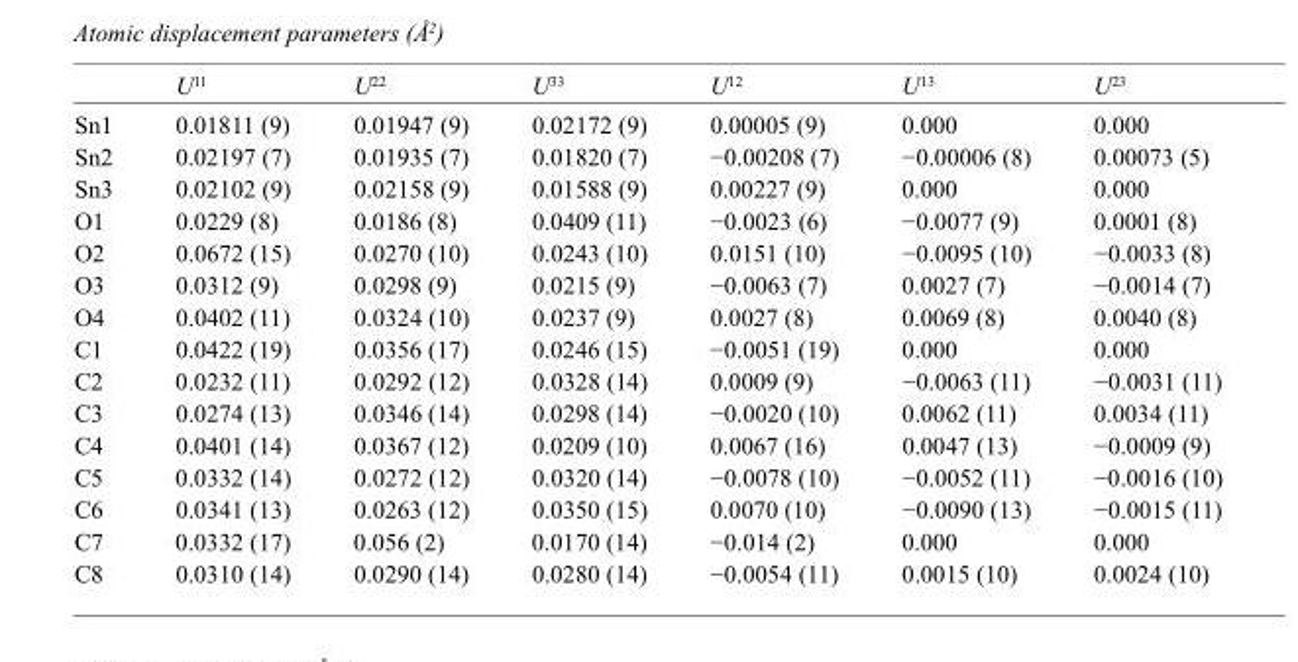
<table><thead><tr><td></td><td>U<sup>11</sup></td><td>U<sup>22</sup></td><td>U<sup>33</sup></td><td>U<sup>12</sup></td><td>U<sup>13</sup></td><td>U<sup>23</sup></td></tr></thead><tbody><tr><td>Sn1</td><td>0.01811 (9)</td><td>0.01947 (9)</td><td>0.02172 (9)</td><td>0.00005 (9)</td><td>0.000</td><td>0.000</td></tr><tr><td>Sn2</td><td>0.02197 (7)</td><td>0.01935 (7)</td><td>0.01820 (7)</td><td>−0.00208 (7)</td><td>−0.00006 (8)</td><td>0.00073 (5)</td></tr><tr><td>Sn3</td><td>0.02102 (9)</td><td>0.02158 (9)</td><td>0.01588 (9)</td><td>0.00227 (9)</td><td>0.000</td><td>0.000</td></tr><tr><td>O1</td><td>0.0229 (8)</td><td>0.0186 (8)</td><td>0.0409 (11)</td><td>−0.0023 (6)</td><td>−0.0077 (9)</td><td>0.0001 (8)</td></tr><tr><td>O2</td><td>0.0672 (15)</td><td>0.0270 (10)</td><td>0.0243 (10)</td><td>0.0151 (10)</td><td>−0.0095 (10)</td><td>−0.0033 (8)</td></tr><tr><td>O3</td><td>0.0312 (9)</td><td>0.0298 (9)</td><td>0.0215 (9)</td><td>−0.0063 (7)</td><td>0.0027 (7)</td><td>−0.0014 (7)</td></tr><tr><td>O4</td><td>0.0402 (11)</td><td>0.0324 (10)</td><td>0.0237 (9)</td><td>0.0027 (8)</td><td>0.0069 (8)</td><td>0.0040 (8)</td></tr><tr><td>C1</td><td>0.0422 (19)</td><td>0.0356 (17)</td><td>0.0246 (15)</td><td>−0.0051 (19)</td><td>0.000</td><td>0.000</td></tr><tr><td>C2</td><td>0.0232 (11)</td><td>0.0292 (12)</td><td>0.0328 (14)</td><td>0.0009 (9)</td><td>−0.0063 (11)</td><td>−0.0031 (11)</td></tr><tr><td>C3</td><td>0.0274 (13)</td><td>0.0346 (14)</td><td>0.0298 (14)</td><td>−0.0020 (10)</td><td>0.0062 (11)</td><td>0.0034 (11)</td></tr><tr><td>C4</td><td>0.0401 (14)</td><td>0.0367 (12)</td><td>0.0209 (10)</td><td>0.0067 (16)</td><td>0.0047 (13)</td><td>−0.0009 (9)</td></tr><tr><td>C5</td><td>0.0332 (14)</td><td>0.0272 (12)</td><td>0.0320 (14)</td><td>−0.0078 (10)</td><td>−0.0052 (11)</td><td>−0.0016 (10)</td></tr><tr><td>C6</td><td>0.0341 (13)</td><td>0.0263 (12)</td><td>0.0350 (15)</td><td>0.0070 (10)</td><td>−0.0090 (13)</td><td>−0.0015 (11)</td></tr><tr><td>C7</td><td>0.0332 (17)</td><td>0.056 (2)</td><td>0.0170 (14)</td><td>−0.014 (2)</td><td>0.000</td><td>0.000</td></tr><tr><td>C8</td><td>0.0310 (14)</td><td>0.0290 (14)</td><td>0.0280 (14)</td><td>−0.0054 (11)</td><td>0.0015 (10)</td><td>0.0024 (10)</td></tr></tbody></table>